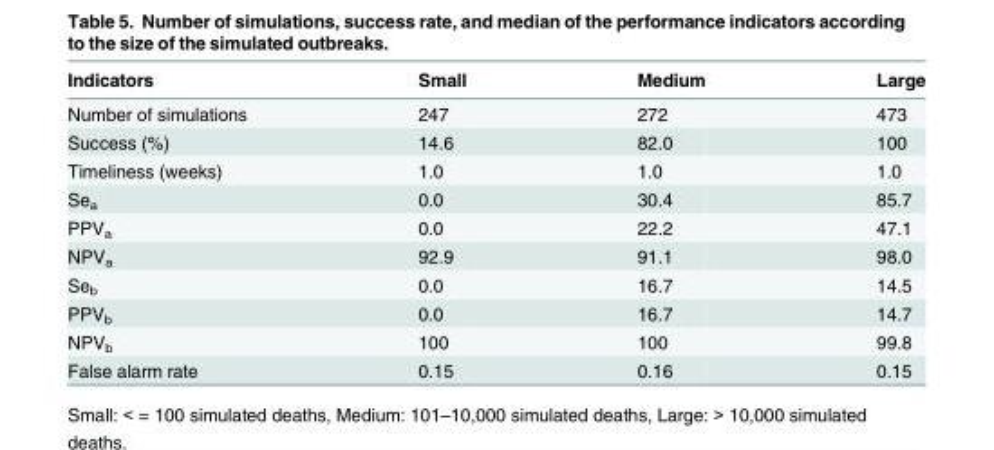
<table><thead><tr><td>Indicators</td><td>Small</td><td>Medium</td><td>Large</td></tr></thead><tbody><tr><td>Number of simulations</td><td>247</td><td>272</td><td>473</td></tr><tr><td>Success (%)</td><td>14.6</td><td>82.0</td><td>100</td></tr><tr><td>Timeliness (weeks)</td><td>1.0</td><td>1.0</td><td>1.0</td></tr><tr><td>Se<sub>a</sub></td><td>0.0</td><td>30.4</td><td>85.7</td></tr><tr><td>PPV<sub>a</sub></td><td>0.0</td><td>22.2</td><td>47.1</td></tr><tr><td>NPV<sub>a</sub></td><td>92.9</td><td>91.1</td><td>98.0</td></tr><tr><td>Se<sub>b</sub></td><td>0.0</td><td>16.7</td><td>14.5</td></tr><tr><td>PPV<sub>b</sub></td><td>0.0</td><td>16.7</td><td>14.7</td></tr><tr><td>NPV<sub>b</sub></td><td>100</td><td>100</td><td>99.8</td></tr><tr><td>False alarm rate</td><td>0.15</td><td>0.16</td><td>0.15</td></tr></tbody></table>